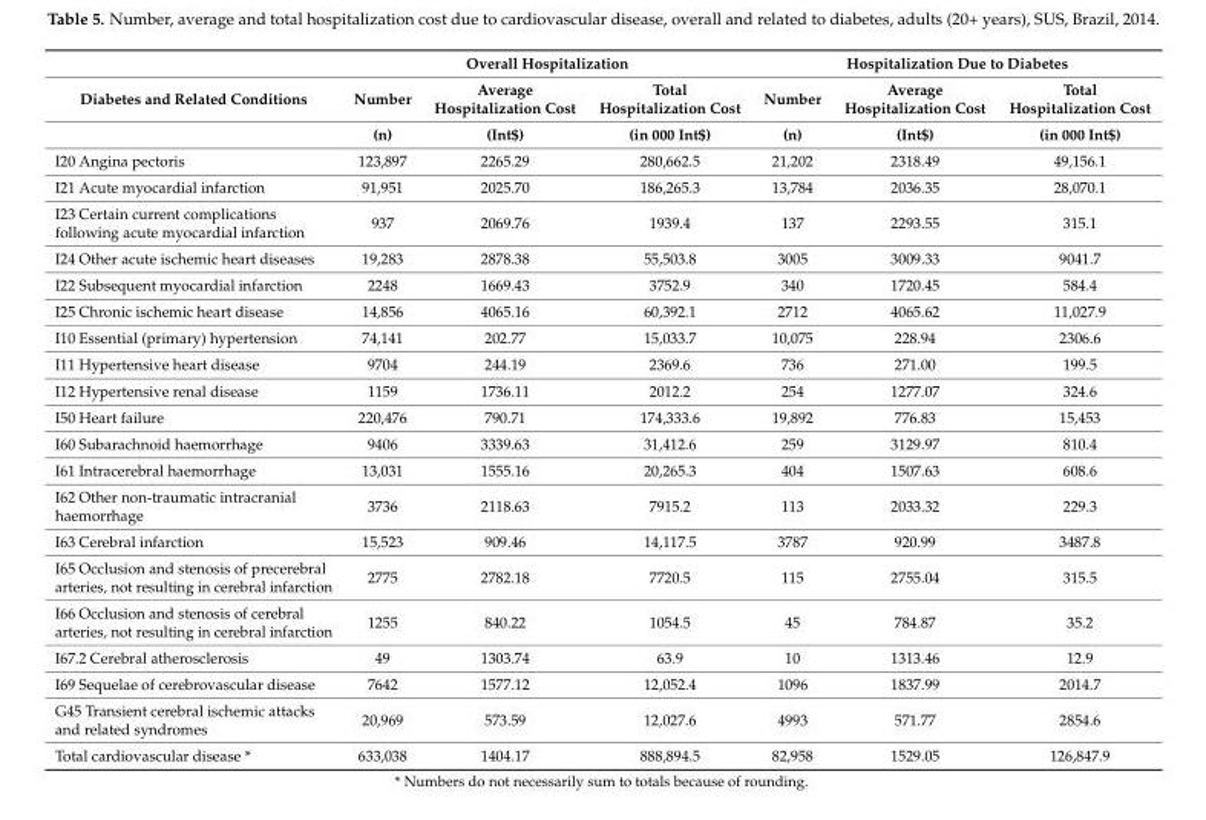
<table><thead><tr><td rowspan="3">Diabetes and Related Conditions</td><td colspan="3">Overall Hospitalization</td><td colspan="3">Hospitalization Due to Diabetes</td></tr><tr><td rowspan="2">Number (n)</td><td rowspan="2">Average Hospitalization Cost (Int$)</td><td rowspan="2">Total Hospitalization Cost (in 000 Int$)</td><td rowspan="2">Number (n)</td><td rowspan="2">Average Hospitalization Cost (Int$)</td><td rowspan="2">Total Hospitalization Cost (in 000 Int$)</td></tr><tr></tr></thead><tbody><tr><td>I20 Angina pectoris</td><td>123,897</td><td>2265.29</td><td>280,662.5</td><td>21,202</td><td>2318.49</td><td>49,156.1</td></tr><tr><td>I21 Acute myocardial infarction</td><td>91,951</td><td>2025.70</td><td>186,265.3</td><td>13,784</td><td>2036.35</td><td>28,070.1</td></tr><tr><td>I23 Certain current complications following acute myocardial infarction</td><td>937</td><td>2069.76</td><td>1939.4</td><td>137</td><td>2293.55</td><td>315.1</td></tr><tr><td>I24 Other acute ischemic heart diseases</td><td>19,283</td><td>2878.38</td><td>55,503.8</td><td>3005</td><td>3009.33</td><td>9041.7</td></tr><tr><td>I22 Subsequent myocardial infarction</td><td>2248</td><td>1669.43</td><td>3752.9</td><td>340</td><td>1720.45</td><td>584.4</td></tr><tr><td>I25 Chronic ischemic heart disease</td><td>14,856</td><td>4065.16</td><td>60,392.1</td><td>2712</td><td>4065.62</td><td>11,027.9</td></tr><tr><td>I10 Essential (primary) hypertension</td><td>74,141</td><td>202.77</td><td>15,033.7</td><td>10,075</td><td>228.94</td><td>2306.6</td></tr><tr><td>I11 Hypertensive heart disease</td><td>9704</td><td>244.19</td><td>2369.6</td><td>736</td><td>271.00</td><td>199.5</td></tr><tr><td>I12 Hypertensive renal disease</td><td>1159</td><td>1736.11</td><td>2012.2</td><td>254</td><td>1277.07</td><td>324.6</td></tr><tr><td>I50 Heart failure</td><td>220,476</td><td>790.71</td><td>174,333.6</td><td>19,892</td><td>776.83</td><td>15,453</td></tr><tr><td>I60 Subarachnoid haemorrhage</td><td>9406</td><td>3339.63</td><td>31,412.6</td><td>259</td><td>3129.97</td><td>810.4</td></tr><tr><td>I61 Intracerebral haemorrhage</td><td>13,031</td><td>1555.16</td><td>20,265.3</td><td>404</td><td>1507.63</td><td>608.6</td></tr><tr><td>I62 Other non-traumatic intracranial haemorrhage</td><td>3736</td><td>2118.63</td><td>7915.2</td><td>113</td><td>2033.32</td><td>229.3</td></tr><tr><td>I63 Cerebral infarction</td><td>15,523</td><td>909.46</td><td>14,117.5</td><td>3787</td><td>920.99</td><td>3487.8</td></tr><tr><td>I65 Occlusion and stenosis of precerebral arteries, not resulting in cerebral infarction</td><td>2775</td><td>2782.18</td><td>7720.5</td><td>115</td><td>2755.04</td><td>315.5</td></tr><tr><td>I66 Occlusion and stenosis of cerebral arteries, not resulting in cerebral infarction</td><td>1255</td><td>840.22</td><td>1054.5</td><td>45</td><td>784.87</td><td>35.2</td></tr><tr><td>I67.2 Cerebral atherosclerosis</td><td>49</td><td>1303.74</td><td>63.9</td><td>10</td><td>1313.46</td><td>12.9</td></tr><tr><td>I69 Sequelae of cerebrovascular disease</td><td>7642</td><td>1577.12</td><td>12,052.4</td><td>1096</td><td>1837.99</td><td>2014.7</td></tr><tr><td>G45 Transient cerebral ischemic attacks and related syndromes</td><td>20,969</td><td>573.59</td><td>12,027.6</td><td>4993</td><td>571.77</td><td>2854.6</td></tr><tr><td>Total cardiovascular disease *</td><td>633,038</td><td>1404.17</td><td>888,894.5</td><td>82,958</td><td>1529.05</td><td>126,847.9</td></tr></tbody></table>